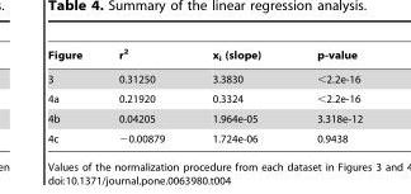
<table><thead><tr><td>Figure</td><td>r<sup>2</sup></td><td>x<sub>i</sub> (slope)</td><td>p-value</td></tr></thead><tbody><tr><td>3</td><td>0.31250</td><td>3.3830</td><td>&lt;2.2e-16</td></tr><tr><td>4a</td><td>0.21920</td><td>0.3324</td><td>&lt;2.2e-16</td></tr><tr><td>4b</td><td>0.04205</td><td>1.964e-05</td><td>3.318e-12</td></tr><tr><td>4c</td><td>−0.00879</td><td>1.724e-06</td><td>0.9438</td></tr></tbody></table>